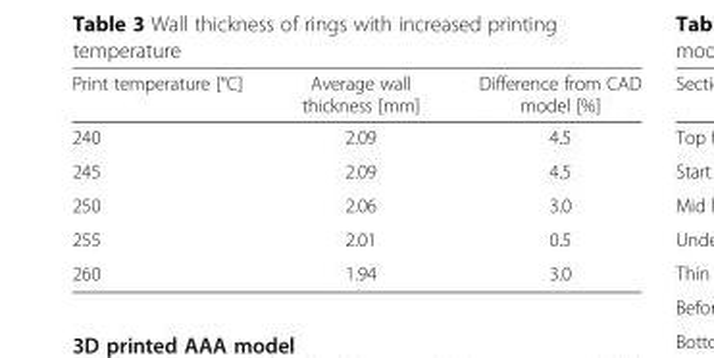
<table><thead><tr><td>Print temperature [°C]</td><td>Average wall thickness [mm]</td><td>Difference from CAD model [%]</td></tr></thead><tbody><tr><td>240</td><td>2.09</td><td>4.5</td></tr><tr><td>245</td><td>2.09</td><td>4.5</td></tr><tr><td>250</td><td>2.06</td><td>3.0</td></tr><tr><td>255</td><td>2.01</td><td>0.5</td></tr><tr><td>260</td><td>1.94</td><td>3.0</td></tr></tbody></table>